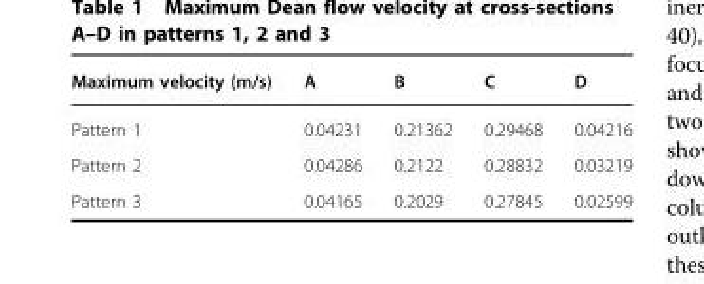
<table><thead><tr><td>Maximum velocity (m/s)</td><td>A</td><td>B</td><td>C</td><td>D</td></tr></thead><tbody><tr><td>Pattern 1</td><td>0.04231</td><td>0.21362</td><td>0.29468</td><td>0.04216</td></tr><tr><td>Pattern 2</td><td>0.04286</td><td>0.2122</td><td>0.28832</td><td>0.03219</td></tr><tr><td>Pattern 3</td><td>0.04165</td><td>0.2029</td><td>0.27845</td><td>0.02599</td></tr></tbody></table>